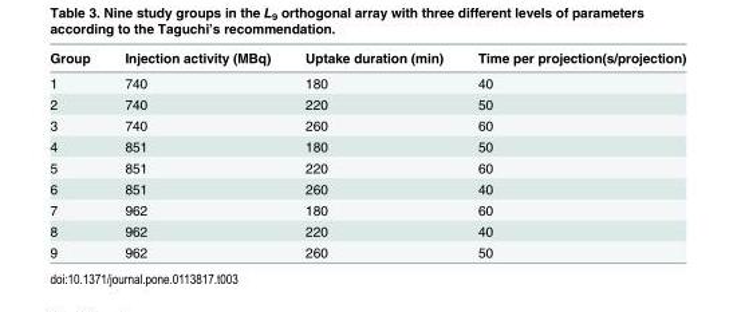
<table><thead><tr><td>Group</td><td>Injection activity (MBq)</td><td>Uptake duration (min)</td><td>Time per projection(s/projection)</td></tr></thead><tbody><tr><td>1</td><td>740</td><td>180</td><td>40</td></tr><tr><td>2</td><td>740</td><td>220</td><td>50</td></tr><tr><td>3</td><td>740</td><td>260</td><td>60</td></tr><tr><td>4</td><td>851</td><td>180</td><td>50</td></tr><tr><td>5</td><td>851</td><td>220</td><td>60</td></tr><tr><td>6</td><td>851</td><td>260</td><td>40</td></tr><tr><td>7</td><td>962</td><td>180</td><td>60</td></tr><tr><td>8</td><td>962</td><td>220</td><td>40</td></tr><tr><td>9</td><td>962</td><td>260</td><td>50</td></tr></tbody></table>